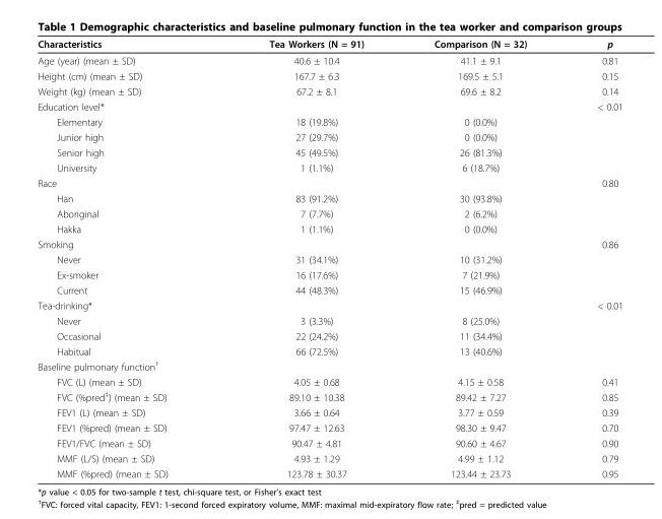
<table><thead><tr><td>Characteristics</td><td>Tea Workers (N = 91)</td><td>Comparison (N = 32)</td><td>p</td></tr></thead><tbody><tr><td>Age (year) (mean ± SD)</td><td>40.6 ± 10.4</td><td>41.1 ± 9.1</td><td>0.81</td></tr><tr><td>Height (cm) (mean ± SD)</td><td>167.7 ± 6.3</td><td>169.5 ± 5.1</td><td>0.15</td></tr><tr><td>Weight (kg) (mean ± SD)</td><td>67.2 ± 8.1</td><td>69.6 ± 8.2</td><td>0.14</td></tr><tr><td>Education level*</td><td></td><td></td><td>&lt; 0.01</td></tr><tr><td>Elementary</td><td>18 (19.8%)</td><td>0 (0.0%)</td><td></td></tr><tr><td>Junior high</td><td>27 (29.7%)</td><td>0 (0.0%)</td><td></td></tr><tr><td>Senior high</td><td>45 (49.5%)</td><td>26 (81.3%)</td><td></td></tr><tr><td>University</td><td>1 (1.1%)</td><td>6 (18.7%)</td><td></td></tr><tr><td>Race</td><td></td><td></td><td>0.80</td></tr><tr><td>Han</td><td>83 (91.2%)</td><td>30 (93.8%)</td><td></td></tr><tr><td>Aboriginal</td><td>7 (7.7%)</td><td>2 (6.2%)</td><td></td></tr><tr><td>Hakka</td><td>1 (1.1%)</td><td>0 (0.0%)</td><td></td></tr><tr><td>Smoking</td><td></td><td></td><td>0.86</td></tr><tr><td>Never</td><td>31 (34.1%)</td><td>10 (31.2%)</td><td></td></tr><tr><td>Ex-smoker</td><td>16 (17.6%)</td><td>7 (21.9%)</td><td></td></tr><tr><td>Current</td><td>44 (48.3%)</td><td>15 (46.9%)</td><td></td></tr><tr><td>Tea-drinking*</td><td></td><td></td><td>&lt; 0.01</td></tr><tr><td>Never</td><td>3 (3.3%)</td><td>8 (25.0%)</td><td></td></tr><tr><td>Occasional</td><td>22 (24.2%)</td><td>11 (34.4%)</td><td></td></tr><tr><td>Habitual</td><td>66 (72.5%)</td><td>13 (40.6%)</td><td></td></tr><tr><td colspan="4">Baseline pulmonary function<sup>†</sup></td></tr><tr><td>FVC (L) (mean ± SD)</td><td>4.05 ± 0.68</td><td>4.15 ± 0.58</td><td>0.41</td></tr><tr><td>FVC (%pred<sup>‡</sup>) (mean ± SD)</td><td>89.10 ± 10.38</td><td>89.42 ± 7.27</td><td>0.85</td></tr><tr><td>FEV1 (L) (mean ± SD)</td><td>3.66 ± 0.64</td><td>3.77 ± 0.59</td><td>0.39</td></tr><tr><td>FEV1 (%pred) (mean ± SD)</td><td>97.47 ± 12.63</td><td>98.30 ± 9.47</td><td>0.70</td></tr><tr><td>FEV1/FVC (mean ± SD)</td><td>90.47 ± 4.81</td><td>90.60 ± 4.67</td><td>0.90</td></tr><tr><td>MMF (L/S) (mean ± SD)</td><td>4.93 ± 1.29</td><td>4.99 ± 1.12</td><td>0.79</td></tr><tr><td>MMF (%pred) (mean ± SD)</td><td>123.78 ± 30.37</td><td>123.44 ± 23.73</td><td>0.95</td></tr></tbody></table>